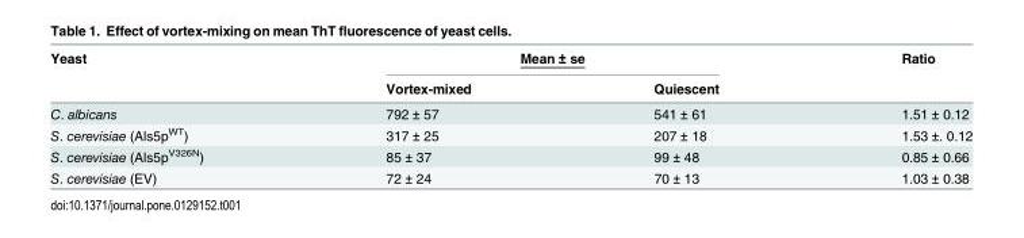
<table><thead><tr><td rowspan="2">Yeast</td><td colspan="2">Mean ± se</td><td rowspan="2">Ratio</td></tr><tr><td>Vortex-mixed</td><td>Quiescent</td></tr></thead><tbody><tr><td>C. albicans</td><td>792 ± 57</td><td>541 ± 61</td><td>1.51 ± 0.12</td></tr><tr><td>S. cerevisiae (Als5p<sup>WT</sup>)</td><td>317 ± 25</td><td>207 ± 18</td><td>1.53 ±. 0.12</td></tr><tr><td>S. cerevisiae (Als5p<sup>V326N</sup>)</td><td>85 ± 37</td><td>99 ± 48</td><td>0.85 ± 0.66</td></tr><tr><td>S. cerevisiae (EV)</td><td>72 ± 24</td><td>70 ± 13</td><td>1.03 ± 0.38</td></tr></tbody></table>